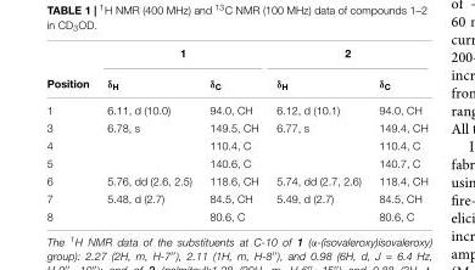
<table><thead><tr><td rowspan="2">Position</td><td colspan="2">1</td><td colspan="2">2</td></tr><tr><td>δ<sub>H</sub></td><td>δ<sub>C</sub></td><td>δ<sub>H</sub></td><td>δ<sub>C</sub></td></tr></thead><tbody><tr><td>1</td><td>6.11, d (10.0)</td><td>94.0, CH</td><td>6.12, d (10.1)</td><td>94.0, CH</td></tr><tr><td>3</td><td>6.78, s</td><td>149.5, CH</td><td>6.77, s</td><td>149.4, CH</td></tr><tr><td>4</td><td></td><td>110.4, C</td><td></td><td>110.4, C</td></tr><tr><td>5</td><td></td><td>140.6, C</td><td></td><td>140.7, C</td></tr><tr><td>6</td><td>5.76, dd (2.6, 2.5)</td><td>118.6, CH</td><td>5.74, dd (2.7, 2.6)</td><td>118.4, CH</td></tr><tr><td>7</td><td>5.48, d (2.7)</td><td>84.5, CH</td><td>5.49, d (2.7)</td><td>84.5, CH</td></tr><tr><td>8</td><td></td><td>80.6, C</td><td></td><td>80.6, C</td></tr></tbody></table>